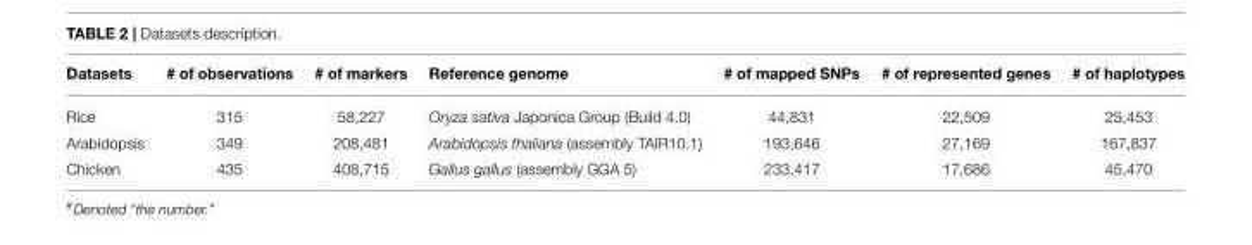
<table><thead><tr><td>Datasets</td><td><sup>#</sup> of observations</td><td><sup>#</sup> of markers</td><td>Reference genome</td><td><sup>#</sup> of mapped SNPs</td><td><sup>#</sup> of represented genes</td><td><sup>#</sup> of haplotypes</td></tr></thead><tbody><tr><td>Rice</td><td>315</td><td>58,227</td><td>Oryza sativa Japonica Group (Build 4.0)</td><td>44,831</td><td>22,509</td><td>25,453</td></tr><tr><td>Arabidopsis</td><td>349</td><td>208,481</td><td>Arabidopsis thaliana (assembly TAIR10.1)</td><td>193,646</td><td>27,169</td><td>167,837</td></tr><tr><td>Chicken</td><td>435</td><td>408,715</td><td>Gallus gallus (assembly GGA 5)</td><td>233,417</td><td>17,686</td><td>45,470</td></tr></tbody></table>